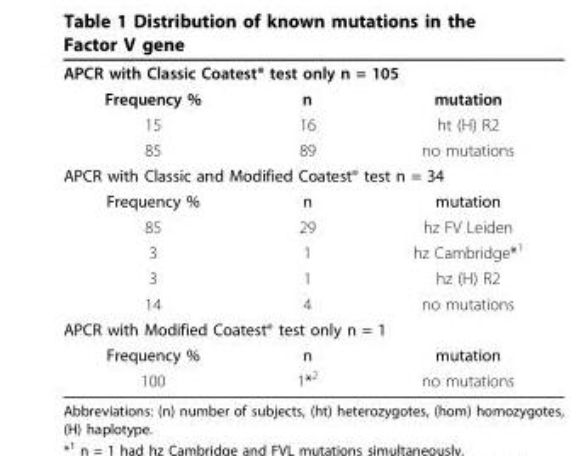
<table><tbody><tr><td colspan="3">APCR with Classic Coatest<sup>®</sup> test only n = 105</td></tr><tr><td>Frequency %</td><td>n</td><td>mutation</td></tr><tr><td>15</td><td>16</td><td>ht (H) R2</td></tr><tr><td>85</td><td>89</td><td>no mutations</td></tr><tr><td colspan="3">APCR with Classic and Modified Coatest<sup>®</sup> test n = 34</td></tr><tr><td>Frequency %</td><td>n</td><td>mutation</td></tr><tr><td>85</td><td>29</td><td>hz FV Leiden</td></tr><tr><td>3</td><td>1</td><td>hz Cambridge*<sup>1</sup></td></tr><tr><td>3</td><td>1</td><td>hz (H) R2</td></tr><tr><td>14</td><td>4</td><td>no mutations</td></tr><tr><td colspan="3">APCR with Modified Coatest<sup>®</sup> test only n = 1</td></tr><tr><td>Frequency %</td><td>n</td><td>mutation</td></tr><tr><td>100</td><td>1*<sup>2</sup></td><td>no mutations</td></tr></tbody></table>